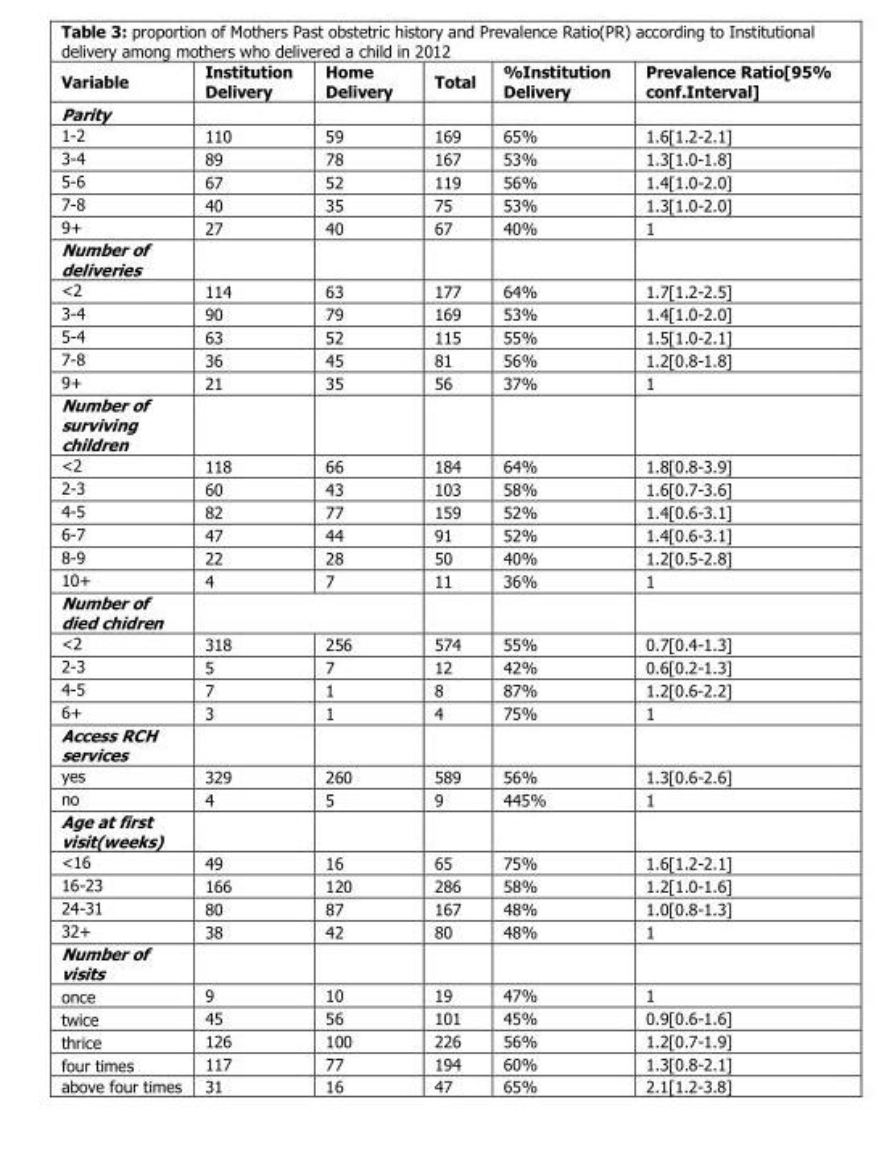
<table><thead><tr><td>Variable</td><td>Institution Delivery</td><td>Home Delivery</td><td>Total</td><td>%Institution Delivery</td><td>Prevalence Ratio[95% conf.Interval]</td></tr></thead><tbody><tr><td colspan="6">Parity</td></tr><tr><td>1-2</td><td>110</td><td>59</td><td>169</td><td>65%</td><td>1.6[1.2-2.1]</td></tr><tr><td>3-4</td><td>89</td><td>78</td><td>167</td><td>53%</td><td>1.3[1.0-1.8]</td></tr><tr><td>5-6</td><td>67</td><td>52</td><td>119</td><td>56%</td><td>1.4[1.0-2.0]</td></tr><tr><td>7-8</td><td>40</td><td>35</td><td>75</td><td>53%</td><td>1.3[1.0-2.0]</td></tr><tr><td>9+</td><td>27</td><td>40</td><td>67</td><td>40%</td><td>1</td></tr><tr><td colspan="6">Number of deliveries</td></tr><tr><td>&lt;2</td><td>114</td><td>63</td><td>177</td><td>64%</td><td>1.7[1.2-2.5]</td></tr><tr><td>3-4</td><td>90</td><td>79</td><td>169</td><td>53%</td><td>1.4[1.0-2.0]</td></tr><tr><td>5-4</td><td>63</td><td>52</td><td>115</td><td>55%</td><td>1.5[1.0-2.1]</td></tr><tr><td>7-8</td><td>36</td><td>45</td><td>81</td><td>56%</td><td>1.2[0.8-1.8]</td></tr><tr><td>9+</td><td>21</td><td>35</td><td>56</td><td>37%</td><td>1</td></tr><tr><td colspan="6">Number of surviving children</td></tr><tr><td>&lt;2</td><td>118</td><td>66</td><td>184</td><td>64%</td><td>1.8[0.8-3.9]</td></tr><tr><td>2-3</td><td>60</td><td>43</td><td>103</td><td>58%</td><td>1.6[0.7-3.6]</td></tr><tr><td>4-5</td><td>82</td><td>77</td><td>159</td><td>52%</td><td>1.4[0.6-3.1]</td></tr><tr><td>6-7</td><td>47</td><td>44</td><td>91</td><td>52%</td><td>1.4[0.6-3.1]</td></tr><tr><td>8-9</td><td>22</td><td>28</td><td>50</td><td>40%</td><td>1.2[0.5-2.8]</td></tr><tr><td>10+</td><td>4</td><td>7</td><td>11</td><td>36%</td><td>1</td></tr><tr><td colspan="6">Number of died chidren</td></tr><tr><td>&lt;2</td><td>318</td><td>256</td><td>574</td><td>55%</td><td>0.7[0.4-1.3]</td></tr><tr><td>2-3</td><td>5</td><td>7</td><td>12</td><td>42%</td><td>0.6[0.2-1.3]</td></tr><tr><td>4-5</td><td>7</td><td>1</td><td>8</td><td>87%</td><td>1.2[0.6-2.2]</td></tr><tr><td>6+</td><td>3</td><td>1</td><td>4</td><td>75%</td><td>1</td></tr><tr><td colspan="6">Access RCH services</td></tr><tr><td>yes</td><td>329</td><td>260</td><td>589</td><td>56%</td><td>1.3[0.6-2.6]</td></tr><tr><td>no</td><td>4</td><td>5</td><td>9</td><td>445%</td><td>1</td></tr><tr><td colspan="6">Age at first visit(weeks)</td></tr><tr><td>&lt;16</td><td>49</td><td>16</td><td>65</td><td>75%</td><td>1.6[1.2-2.1]</td></tr><tr><td>16-23</td><td>166</td><td>120</td><td>286</td><td>58%</td><td>1.2[1.0-1.6]</td></tr><tr><td>24-31</td><td>80</td><td>87</td><td>167</td><td>48%</td><td>1.0[0.8-1.3]</td></tr><tr><td>32+</td><td>38</td><td>42</td><td>80</td><td>48%</td><td>1</td></tr><tr><td colspan="6">Number of visits</td></tr><tr><td>once</td><td>9</td><td>10</td><td>19</td><td>47%</td><td>1</td></tr><tr><td>twice</td><td>45</td><td>56</td><td>101</td><td>45%</td><td>0.9[0.6-1.6]</td></tr><tr><td>thrice</td><td>126</td><td>100</td><td>226</td><td>56%</td><td>1.2[0.7-1.9]</td></tr><tr><td>four times</td><td>117</td><td>77</td><td>194</td><td>60%</td><td>1.3[0.8-2.1]</td></tr><tr><td>above four times</td><td>31</td><td>16</td><td>47</td><td>65%</td><td>2.1[1.2-3.8]</td></tr></tbody></table>